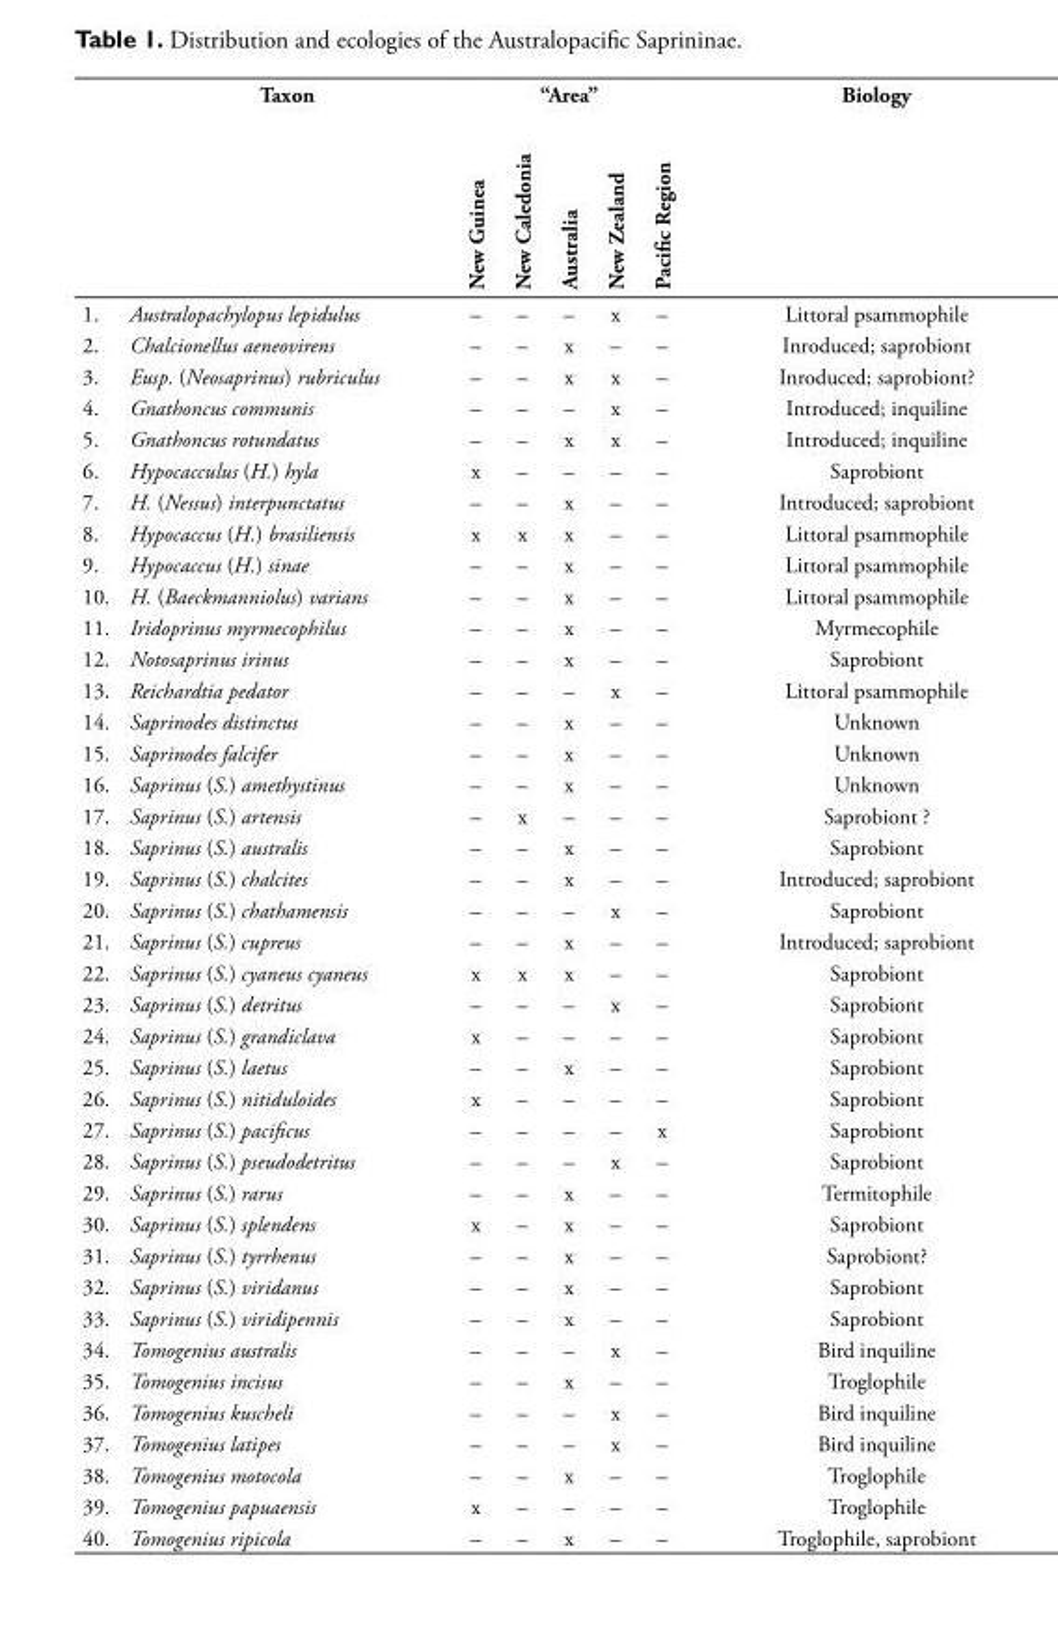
<table><thead><tr><td rowspan="2"></td><td rowspan="2">Taxon</td><td colspan="5">“Area”</td><td rowspan="2">Biology</td></tr><tr><td>New Guinea</td><td>New Caledonia</td><td>Australia</td><td>New Zealand</td><td>Pacific Region</td></tr></thead><tbody><tr><td>1.</td><td>Australopachylopus lepidulus</td><td>–</td><td>–</td><td>–</td><td>x</td><td>–</td><td>Littoral psammophile</td></tr><tr><td>2.</td><td>Chalcionellus aeneovirens</td><td>–</td><td>–</td><td>x</td><td>–</td><td>–</td><td>Inroduced; saprobiont</td></tr><tr><td>3.</td><td>Eusp. (Neosaprinus) rubriculus</td><td>–</td><td>–</td><td>x</td><td>x</td><td>–</td><td>Inroduced; saprobiont?</td></tr><tr><td>4.</td><td>Gnathoncus communis</td><td>–</td><td>–</td><td>–</td><td>x</td><td>–</td><td>Introduced; inquiline</td></tr><tr><td>5.</td><td>Gnathoncus rotundatus</td><td>–</td><td>–</td><td>x</td><td>x</td><td>–</td><td>Introduced; inquiline</td></tr><tr><td>6.</td><td>Hypocacculus (H.) hyla</td><td>x</td><td>–</td><td>–</td><td>–</td><td>–</td><td>Saprobiont</td></tr><tr><td>7.</td><td>H. (Nessus) interpunctatus</td><td>–</td><td>–</td><td>x</td><td>–</td><td>–</td><td>Introduced; saprobiont</td></tr><tr><td>8.</td><td>Hypocaccus (H.) brasiliensis</td><td>x</td><td>x</td><td>x</td><td>–</td><td>–</td><td>Littoral psammophile</td></tr><tr><td>9.</td><td>Hypocaccus (H.) sinae</td><td>–</td><td>–</td><td>x</td><td>–</td><td>–</td><td>Littoral psammophile</td></tr><tr><td>10.</td><td>H. (Baeckmanniolus) varians</td><td>–</td><td>–</td><td>x</td><td>–</td><td>–</td><td>Littoral psammophile</td></tr><tr><td>11.</td><td>Iridoprinus myrmecophilus</td><td>–</td><td>–</td><td>x</td><td>–</td><td>–</td><td>Myrmecophile</td></tr><tr><td>12.</td><td>Notosaprinus irinus</td><td>–</td><td>–</td><td>x</td><td>–</td><td>–</td><td>Saprobiont</td></tr><tr><td>13.</td><td>Reichardtia pedator</td><td>–</td><td>–</td><td>–</td><td>x</td><td>–</td><td>Littoral psammophile</td></tr><tr><td>14.</td><td>Saprinodes distinctus</td><td>–</td><td>–</td><td>x</td><td>–</td><td>–</td><td>Unknown</td></tr><tr><td>15.</td><td>Saprinodes falcifer</td><td>–</td><td>–</td><td>x</td><td>–</td><td>–</td><td>Unknown</td></tr><tr><td>16.</td><td>Saprinus (S.) amethystinus</td><td>–</td><td>–</td><td>x</td><td>–</td><td>–</td><td>Unknown</td></tr><tr><td>17.</td><td>Saprinus (S.) artensis</td><td>–</td><td>x</td><td>–</td><td>–</td><td>–</td><td>Saprobiont ?</td></tr><tr><td>18.</td><td>Saprinus (S.) australis</td><td>–</td><td>–</td><td>x</td><td>–</td><td>–</td><td>Saprobiont</td></tr><tr><td>19.</td><td>Saprinus (S.) chalcites</td><td>–</td><td>–</td><td>x</td><td>–</td><td>–</td><td>Introduced; saprobiont</td></tr><tr><td>20.</td><td>Saprinus (S.) chathamensis</td><td>–</td><td>–</td><td>–</td><td>x</td><td>–</td><td>Saprobiont</td></tr><tr><td>21.</td><td>Saprinus (S.) cupreus</td><td>–</td><td>–</td><td>x</td><td>–</td><td>–</td><td>Introduced; saprobiont</td></tr><tr><td>22.</td><td>Saprinus (S.) cyaneus cyaneus</td><td>x</td><td>x</td><td>x</td><td>–</td><td>–</td><td>Saprobiont</td></tr><tr><td>23.</td><td>Saprinus (S.) detritus</td><td>–</td><td>–</td><td>–</td><td>x</td><td>–</td><td>Saprobiont</td></tr><tr><td>24.</td><td>Saprinus (S.) grandiclava</td><td>x</td><td>–</td><td>–</td><td>–</td><td>–</td><td>Saprobiont</td></tr><tr><td>25.</td><td>Saprinus (S.) laetus</td><td>–</td><td>–</td><td>x</td><td>–</td><td>–</td><td>Saprobiont</td></tr><tr><td>26.</td><td>Saprinus (S.) nitiduloides</td><td>x</td><td>–</td><td>–</td><td>–</td><td>–</td><td>Saprobiont</td></tr><tr><td>27.</td><td>Saprinus (S.) pacificus</td><td>–</td><td>–</td><td>–</td><td>–</td><td>x</td><td>Saprobiont</td></tr><tr><td>28.</td><td>Saprinus (S.) pseudodetritus</td><td>–</td><td>–</td><td>–</td><td>x</td><td>–</td><td>Saprobiont</td></tr><tr><td>29.</td><td>Saprinus (S.) rarus</td><td>–</td><td>–</td><td>x</td><td>–</td><td>–</td><td>Termitophile</td></tr><tr><td>30.</td><td>Saprinus (S.) splendens</td><td>x</td><td>–</td><td>x</td><td>–</td><td>–</td><td>Saprobiont</td></tr><tr><td>31.</td><td>Saprinus (S.) tyrrhenus</td><td>–</td><td>–</td><td>x</td><td>–</td><td>–</td><td>Saprobiont?</td></tr><tr><td>32.</td><td>Saprinus (S.) viridanus</td><td>–</td><td>–</td><td>x</td><td>–</td><td>–</td><td>Saprobiont</td></tr><tr><td>33.</td><td>Saprinus (S.) viridipennis</td><td>–</td><td>–</td><td>x</td><td>–</td><td>–</td><td>Saprobiont</td></tr><tr><td>34.</td><td>Tomogenius australis</td><td>–</td><td>–</td><td>–</td><td>x</td><td>–</td><td>Bird inquiline</td></tr><tr><td>35.</td><td>Tomogenius incisus</td><td>–</td><td>–</td><td>x</td><td>–</td><td>–</td><td>Troglophile</td></tr><tr><td>36.</td><td>Tomogenius kuscheli</td><td>–</td><td>–</td><td>–</td><td>x</td><td>–</td><td>Bird inquiline</td></tr><tr><td>37.</td><td>Tomogenius latipes</td><td>–</td><td>–</td><td>–</td><td>x</td><td>–</td><td>Bird inquiline</td></tr><tr><td>38.</td><td>Tomogenius motocola</td><td>–</td><td>–</td><td>x</td><td>–</td><td>–</td><td>Troglophile</td></tr><tr><td>39.</td><td>Tomogenius papuaensis</td><td>x</td><td>–</td><td>–</td><td>–</td><td>–</td><td>Troglophile</td></tr><tr><td>40.</td><td>Tomogenius ripicola</td><td>–</td><td>–</td><td>x</td><td>–</td><td>–</td><td>Troglophile, saprobiont</td></tr></tbody></table>